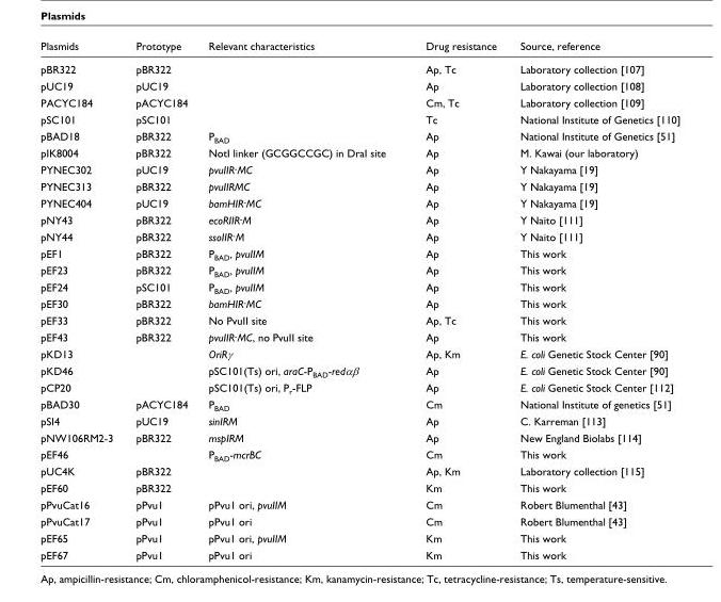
<table><thead><tr><td>Plasmids</td><td>Prototype</td><td>Relevant characteristics</td><td>Drug resistance</td><td>Source, reference</td></tr></thead><tbody><tr><td>pBR322</td><td>pBR322</td><td></td><td>Ap, Tc</td><td>Laboratory collection [107]</td></tr><tr><td>pUC19</td><td>pUC19</td><td></td><td>Ap</td><td>Laboratory collection [108]</td></tr><tr><td>PACYC184</td><td>pACYC184</td><td></td><td>Cm, Tc</td><td>Laboratory collection [109]</td></tr><tr><td>pSC101</td><td>pSC101</td><td></td><td>Tc</td><td>National Institute of Genetics [110]</td></tr><tr><td>pBAD18</td><td>pBR322</td><td>P<sub>BAD</sub></td><td>Ap</td><td>National Institute of Genetics [51]</td></tr><tr><td>pIK8004</td><td>pBR322</td><td>NotI linker (GCGGCCGC) in DraI site</td><td>Ap</td><td>M. Kawai (our laboratory)</td></tr><tr><td>PYNEC302</td><td>pUC19</td><td>pvuIIR<sup>-</sup>MC</td><td>Ap</td><td>Y Nakayama [19]</td></tr><tr><td>PYNEC313</td><td>pBR322</td><td>pvuIIRMC</td><td>Ap</td><td>Y Nakayama [19]</td></tr><tr><td>PYNEC404</td><td>pUC19</td><td>bamHIR<sup>-</sup>MC</td><td>Ap</td><td>Y Nakayama [19]</td></tr><tr><td>pNY43</td><td>pBR322</td><td>ecoRIIR<sup>-</sup>M</td><td>Ap</td><td>Y Naito [111]</td></tr><tr><td>pNY44</td><td>pBR322</td><td>ssoIIR<sup>-</sup>M</td><td>Ap</td><td>Y Naito [111]</td></tr><tr><td>pEF1</td><td>pBR322</td><td>P<sub>BAD</sub>, pvuIIM</td><td>Ap</td><td>This work</td></tr><tr><td>pEF23</td><td>pBR322</td><td>P<sub>BAD</sub>, pvuIIM</td><td>Ap</td><td>This work</td></tr><tr><td>pEF24</td><td>pSC101</td><td>P<sub>BAD</sub>, pvuIIM</td><td>Ap</td><td>This work</td></tr><tr><td>pEF30</td><td>pBR322</td><td>bamHIR<sup>-</sup>MC</td><td>Ap</td><td>This work</td></tr><tr><td>pEF33</td><td>pBR322</td><td>No PvuII site</td><td>Ap, Tc</td><td>This work</td></tr><tr><td>pEF43</td><td>pBR322</td><td>pvuIIR<sup>-</sup>MC, no PvuII site</td><td>Ap</td><td>This work</td></tr><tr><td>pKD13</td><td></td><td>OriRγ</td><td>Ap, Km</td><td>E. coli Genetic Stock Center [90]</td></tr><tr><td>pKD46</td><td></td><td>pSC101(Ts) ori, araC-P<sub>BAD</sub>-redαβ</td><td>Ap</td><td>E. coli Genetic Stock Center [90]</td></tr><tr><td>pCP20</td><td></td><td>pSC101(Ts) ori, P<sub>r</sub>-FLP</td><td>Ap</td><td>E. coli Genetic Stock Center [112]</td></tr><tr><td>pBAD30</td><td>pACYC184</td><td>P<sub>BAD</sub></td><td>Cm</td><td>National Institute of genetics [51]</td></tr><tr><td>pSI4</td><td>pUC19</td><td>sinIRM</td><td>Ap</td><td>C. Karreman [113]</td></tr><tr><td>pNW106RM2-3</td><td>pBR322</td><td>mspIRM</td><td>Ap</td><td>New England Biolabs [114]</td></tr><tr><td>pEF46</td><td></td><td>P<sub>BAD</sub>-mcrBC</td><td>Cm</td><td>This work</td></tr><tr><td>pUC4K</td><td>pBR322</td><td></td><td>Ap, Km</td><td>Laboratory collection [115]</td></tr><tr><td>pEF60</td><td>pBR322</td><td></td><td>Km</td><td>This work</td></tr><tr><td>pPvuCat16</td><td>pPvu1</td><td>pPvu1 ori, pvuIIM</td><td>Cm</td><td>Robert Blumenthal [43]</td></tr><tr><td>pPvuCat17</td><td>pPvu1</td><td>pPvu1 ori</td><td>Cm</td><td>Robert Blumenthal [43]</td></tr><tr><td>pEF65</td><td>pPvu1</td><td>pPvu1 ori, pvuIIM</td><td>Km</td><td>This work</td></tr><tr><td>pEF67</td><td>pPvu1</td><td>pPvu1 ori</td><td>Km</td><td>This work</td></tr></tbody></table>